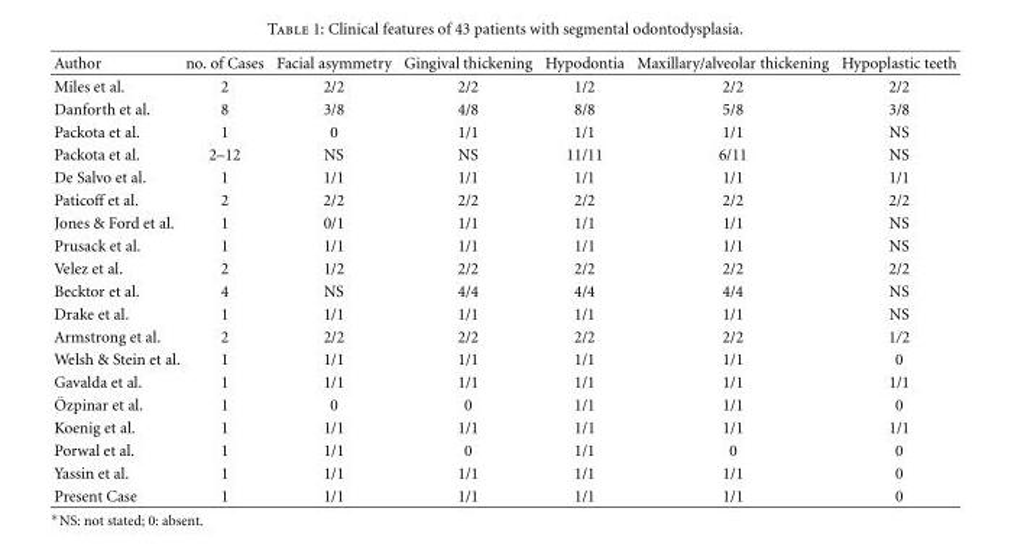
<table><thead><tr><td>Author</td><td>no. of Cases</td><td>Facial asymmetry</td><td>Gingival thickening</td><td>Hypodontia</td><td>Maxillary/alveolar thickening</td><td>Hypoplastic teeth</td></tr></thead><tbody><tr><td>Miles et al.</td><td>2</td><td>2/2</td><td>2/2</td><td>1/2</td><td>2/2</td><td>2/2</td></tr><tr><td>Danforth et al.</td><td>8</td><td>3/8</td><td>4/8</td><td>8/8</td><td>5/8</td><td>3/8</td></tr><tr><td>Packota et al.</td><td>1</td><td>0</td><td>1/1</td><td>1/1</td><td>1/1</td><td>NS</td></tr><tr><td>Packota et al.</td><td>2–12</td><td>NS</td><td>NS</td><td>11/11</td><td>6/11</td><td>NS</td></tr><tr><td>De Salvo et al.</td><td>1</td><td>1/1</td><td>1/1</td><td>1/1</td><td>1/1</td><td>1/1</td></tr><tr><td>Paticoff et al.</td><td>2</td><td>2/2</td><td>2/2</td><td>2/2</td><td>2/2</td><td>2/2</td></tr><tr><td>Jones &amp; Ford et al.</td><td>1</td><td>0/1</td><td>1/1</td><td>1/1</td><td>1/1</td><td>NS</td></tr><tr><td>Prusack et al.</td><td>1</td><td>1/1</td><td>1/1</td><td>1/1</td><td>1/1</td><td>NS</td></tr><tr><td>Velez et al.</td><td>2</td><td>1/2</td><td>2/2</td><td>2/2</td><td>2/2</td><td>2/2</td></tr><tr><td>Becktor et al.</td><td>4</td><td>NS</td><td>4/4</td><td>4/4</td><td>4/4</td><td>NS</td></tr><tr><td>Drake et al.</td><td>1</td><td>1/1</td><td>1/1</td><td>1/1</td><td>1/1</td><td>NS</td></tr><tr><td>Armstrong et al.</td><td>2</td><td>2/2</td><td>2/2</td><td>2/2</td><td>2/2</td><td>1/2</td></tr><tr><td>Welsh &amp; Stein et al.</td><td>1</td><td>1/1</td><td>1/1</td><td>1/1</td><td>1/1</td><td>0</td></tr><tr><td>Gavalda et al.</td><td>1</td><td>1/1</td><td>1/1</td><td>1/1</td><td>1/1</td><td>1/1</td></tr><tr><td>¨Ozpinar et al.</td><td>1</td><td>0</td><td>0</td><td>1/1</td><td>1/1</td><td>0</td></tr><tr><td>Koenig et al.</td><td>1</td><td>1/1</td><td>1/1</td><td>1/1</td><td>1/1</td><td>1/1</td></tr><tr><td>Porwal et al.</td><td>1</td><td>1/1</td><td>0</td><td>1/1</td><td>0</td><td>0</td></tr><tr><td>Yassin et al.</td><td>1</td><td>1/1</td><td>1/1</td><td>1/1</td><td>1/1</td><td>0</td></tr><tr><td>Present Case</td><td>1</td><td>1/1</td><td>1/1</td><td>1/1</td><td>1/1</td><td>0</td></tr></tbody></table>